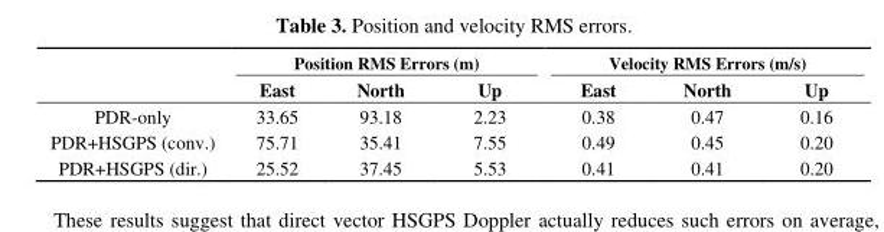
<table><thead><tr><td rowspan="2"></td><td colspan="3">Position RMS Errors (m)</td><td colspan="3">Velocity RMS Errors (m/s)</td></tr><tr><td>East</td><td>North</td><td>Up</td><td>East</td><td>North</td><td>Up</td></tr></thead><tbody><tr><td>PDR-only</td><td>33.65</td><td>93.18</td><td>2.23</td><td>0.38</td><td>0.47</td><td>0.16</td></tr><tr><td>PDR+HSGPS (conv.)</td><td>75.71</td><td>35.41</td><td>7.55</td><td>0.49</td><td>0.45</td><td>0.20</td></tr><tr><td>PDR+HSGPS (dir.)</td><td>25.52</td><td>37.45</td><td>5.53</td><td>0.41</td><td>0.41</td><td>0.20</td></tr></tbody></table>